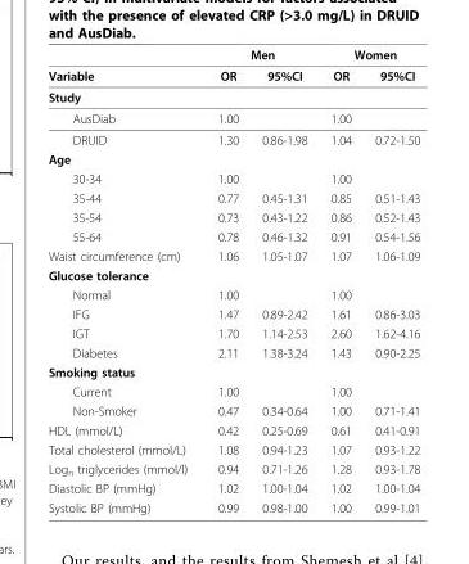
<table><thead><tr><td rowspan="2">Variable</td><td colspan="2">Men</td><td colspan="2">Women</td></tr><tr><td>OR</td><td>95%CI</td><td>OR</td><td>95%CI</td></tr></thead><tbody><tr><td colspan="5">Study</td></tr><tr><td>AusDiab</td><td>1.00</td><td></td><td>1.00</td><td></td></tr><tr><td>DRUID</td><td>1.30</td><td>0.86-1.98</td><td>1.04</td><td>0.72-1.50</td></tr><tr><td colspan="5">Age</td></tr><tr><td>30-34</td><td>1.00</td><td></td><td>1.00</td><td></td></tr><tr><td>35-44</td><td>0.77</td><td>0.45-1.31</td><td>0.85</td><td>0.51-1.43</td></tr><tr><td>35-54</td><td>0.73</td><td>0.43-1.22</td><td>0.86</td><td>0.52-1.43</td></tr><tr><td>55-64</td><td>0.78</td><td>0.46-1.32</td><td>0.91</td><td>0.54-1.56</td></tr><tr><td>Waist circumference (cm)</td><td>1.06</td><td>1.05-1.07</td><td>1.07</td><td>1.06-1.09</td></tr><tr><td colspan="5">Glucose tolerance</td></tr><tr><td>Normal</td><td>1.00</td><td></td><td>1.00</td><td></td></tr><tr><td>IFG</td><td>1.47</td><td>0.89-2.42</td><td>1.61</td><td>0.86-3.03</td></tr><tr><td>IGT</td><td>1.70</td><td>1.14-2.53</td><td>2.60</td><td>1.62-4.16</td></tr><tr><td>Diabetes</td><td>2.11</td><td>1.38-3.24</td><td>1.43</td><td>0.90-2.25</td></tr><tr><td colspan="5">Smoking status</td></tr><tr><td>Current</td><td>1.00</td><td></td><td>1.00</td><td></td></tr><tr><td>Non-Smoker</td><td>0.47</td><td>0.34-0.64</td><td>1.00</td><td>0.71-1.41</td></tr><tr><td>HDL (mmol/L)</td><td>0.42</td><td>0.25-0.69</td><td>0.61</td><td>0.41-0.91</td></tr><tr><td>Total cholesterol (mmol/L)</td><td>1.08</td><td>0.94-1.23</td><td>1.07</td><td>0.93-1.22</td></tr><tr><td>Log<sub>n</sub> triglycerides (mmol/l)</td><td>0.94</td><td>0.71-1.26</td><td>1.28</td><td>0.93-1.78</td></tr><tr><td>Diastolic BP (mmHg)</td><td>1.02</td><td>1.00-1.04</td><td>1.02</td><td>1.00-1.04</td></tr><tr><td>Systolic BP (mmHg)</td><td>0.99</td><td>0.98-1.00</td><td>1.00</td><td>0.99-1.01</td></tr></tbody></table>